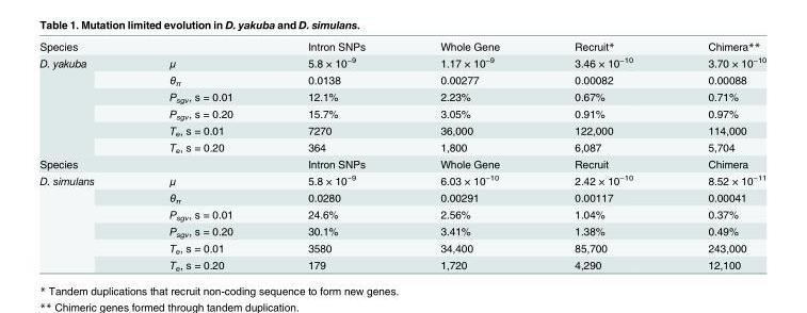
<table><tbody><tr><td>Species</td><td></td><td>Intron SNPs</td><td>Whole Gene</td><td>Recruit*</td><td>Chimera**</td></tr><tr><td rowspan="6">D. yakuba</td><td>μ</td><td>5.8 × 10<sup>−9</sup></td><td>1.17 × 10<sup>−9</sup></td><td>3.46 × 10<sup>−10</sup></td><td>3.70 × 10<sup>−10</sup></td></tr><tr><td>θ<sub>π</sub></td><td>0.0138</td><td>0.00277</td><td>0.00082</td><td>0.00088</td></tr><tr><td>P<sub>sgv</sub>, s = 0.01</td><td>12.1%</td><td>2.23%</td><td>0.67%</td><td>0.71%</td></tr><tr><td>P<sub>sgv</sub>, s = 0.20</td><td>15.7%</td><td>3.05%</td><td>0.91%</td><td>0.97%</td></tr><tr><td>T<sub>e</sub>, s = 0.01</td><td>7270</td><td>36,000</td><td>122,000</td><td>114,000</td></tr><tr><td>T<sub>e</sub>, s = 0.20</td><td>364</td><td>1,800</td><td>6,087</td><td>5,704</td></tr><tr><td>Species</td><td></td><td>Intron SNPs</td><td>Whole Gene</td><td>Recruit</td><td>Chimera</td></tr><tr><td rowspan="6">D. simulans</td><td>μ</td><td>5.8 × 10<sup>−9</sup></td><td>6.03 × 10<sup>−10</sup></td><td>2.42 × 10<sup>−10</sup></td><td>8.52 × 10<sup>−11</sup></td></tr><tr><td>θ<sub>π</sub></td><td>0.0280</td><td>0.00291</td><td>0.00117</td><td>0.00041</td></tr><tr><td>P<sub>sgv</sub>, s = 0.01</td><td>24.6%</td><td>2.56%</td><td>1.04%</td><td>0.37%</td></tr><tr><td>P<sub>sgv</sub>, s = 0.20</td><td>30.1%</td><td>3.41%</td><td>1.38%</td><td>0.49%</td></tr><tr><td>T<sub>e</sub>, s = 0.01</td><td>3580</td><td>34,400</td><td>85,700</td><td>243,000</td></tr><tr><td>T<sub>e</sub>, s = 0.20</td><td>179</td><td>1,720</td><td>4,290</td><td>12,100</td></tr></tbody></table>